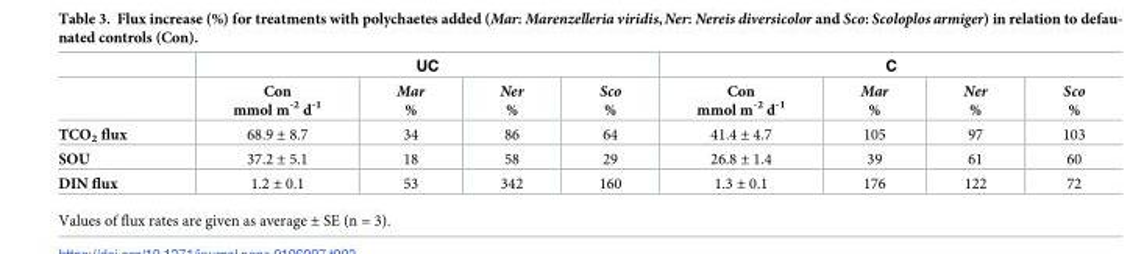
<table><thead><tr><td rowspan="2"></td><td colspan="4">UC</td><td colspan="4">C</td></tr><tr><td>Con mmol m<sup>-2</sup> d<sup>-1</sup></td><td>Mar %</td><td>Ner %</td><td>Sco %</td><td>Con mmol m<sup>-2</sup> d<sup>-1</sup></td><td>Mar %</td><td>Ner %</td><td>Sco %</td></tr></thead><tbody><tr><td>TCO<sub>2</sub> flux</td><td>68.9 ± 8.7</td><td>34</td><td>86</td><td>64</td><td>41.4 ± 4.7</td><td>105</td><td>97</td><td>103</td></tr><tr><td>SOU</td><td>37.2 ± 5.1</td><td>18</td><td>58</td><td>29</td><td>26.8 ± 1.4</td><td>39</td><td>61</td><td>60</td></tr><tr><td>DIN flux</td><td>1.2 ± 0.1</td><td>53</td><td>342</td><td>160</td><td>1.3 ± 0.1</td><td>176</td><td>122</td><td>72</td></tr></tbody></table>